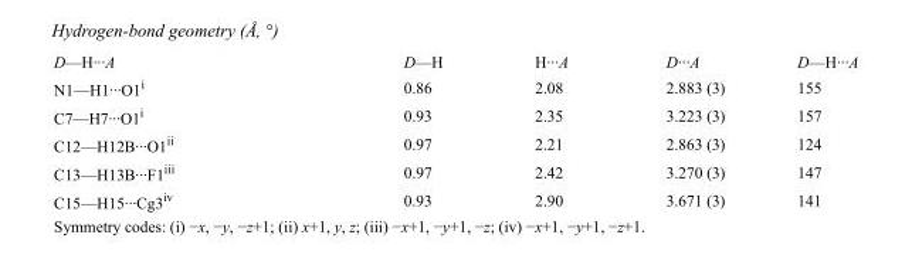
<table><tbody><tr><td>D—H···A</td><td>D—H</td><td>H···A</td><td>D···A</td><td>D—H···A</td></tr><tr><td>N1—H1···O1<sup>i</sup></td><td>0.86</td><td>2.08</td><td>2.883 (3)</td><td>155</td></tr><tr><td>C7—H7···O1<sup>i</sup></td><td>0.93</td><td>2.35</td><td>3.223 (3)</td><td>157</td></tr><tr><td>C12—H12B···O1<sup>ii</sup></td><td>0.97</td><td>2.21</td><td>2.863 (3)</td><td>124</td></tr><tr><td>C13—H13B···F1<sup>iii</sup></td><td>0.97</td><td>2.42</td><td>3.270 (3)</td><td>147</td></tr><tr><td>C15—H15···Cg3<sup>iv</sup></td><td>0.93</td><td>2.90</td><td>3.671 (3)</td><td>141</td></tr></tbody></table>